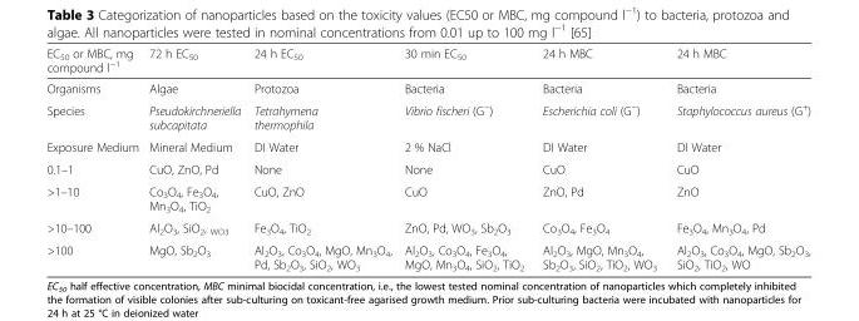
<table><thead><tr><td>EC<sub>50</sub> or MBC, mg compound l<sup>−1</sup></td><td>72 h EC<sub>50</sub></td><td>24 h EC<sub>50</sub></td><td>30 min EC<sub>50</sub></td><td>24 h MBC</td><td>24 h MBC</td></tr></thead><tbody><tr><td>Organisms</td><td>Algae</td><td>Protozoa</td><td>Bacteria</td><td>Bacteria</td><td>Bacteria</td></tr><tr><td>Species</td><td>Pseudokirchneriella subcapitata</td><td>Tetrahymena thermophila</td><td>Vibrio fischeri (G<sup>−</sup>)</td><td>Escherichia coli (G<sup>−</sup>)</td><td>Staphylococcus aureus (G<sup>+</sup>)</td></tr><tr><td>Exposure Medium</td><td>Mineral Medium</td><td>DI Water</td><td>2 % NaCl</td><td>DI Water</td><td>DI Water</td></tr><tr><td>0.1–1</td><td>CuO, ZnO, Pd</td><td>None</td><td>None</td><td>CuO</td><td>CuO</td></tr><tr><td>&gt;1–10</td><td>Co<sub>3</sub>O<sub>4</sub>, Fe<sub>3</sub>O<sub>4</sub>, Mn<sub>3</sub>O<sub>4</sub>, TiO<sub>2</sub></td><td>CuO, ZnO</td><td>CuO</td><td>ZnO, Pd</td><td>ZnO</td></tr><tr><td>&gt;10–100</td><td>Al<sub>2</sub>O<sub>3</sub>, SiO<sub>2</sub>, <sub>WO3</sub></td><td>Fe<sub>3</sub>O<sub>4</sub>, TiO<sub>2</sub></td><td>ZnO, Pd, WO<sub>3</sub>, Sb<sub>2</sub>O<sub>3</sub></td><td>Co<sub>3</sub>O<sub>4</sub>, Fe<sub>3</sub>O<sub>4</sub></td><td>Fe<sub>3</sub>O<sub>4</sub>, Mn<sub>3</sub>O<sub>4</sub>, Pd</td></tr><tr><td>&gt;100</td><td>MgO, Sb<sub>2</sub>O<sub>3</sub></td><td>Al<sub>2</sub>O<sub>3</sub>, Co<sub>3</sub>O<sub>4</sub>, MgO, Mn<sub>3</sub>O<sub>4</sub>, Pd, Sb<sub>2</sub>O<sub>3</sub>, SiO<sub>2</sub>, WO<sub>3</sub></td><td>Al<sub>2</sub>O<sub>3</sub>, Co<sub>3</sub>O<sub>4</sub>, Fe<sub>3</sub>O<sub>4</sub>, MgO, Mn<sub>3</sub>O<sub>4</sub>, SiO<sub>2</sub>, TiO<sub>2</sub></td><td>Al<sub>2</sub>O<sub>3</sub>, MgO, Mn<sub>3</sub>O<sub>4</sub>, Sb<sub>2</sub>O<sub>3</sub>, SiO<sub>2</sub>, TiO<sub>2</sub>, WO<sub>3</sub></td><td>Al<sub>2</sub>O<sub>3</sub>, Co<sub>3</sub>O<sub>4</sub>, MgO, Sb<sub>2</sub>O<sub>3</sub>, SiO<sub>2</sub>, TiO<sub>2</sub>, WO</td></tr></tbody></table>